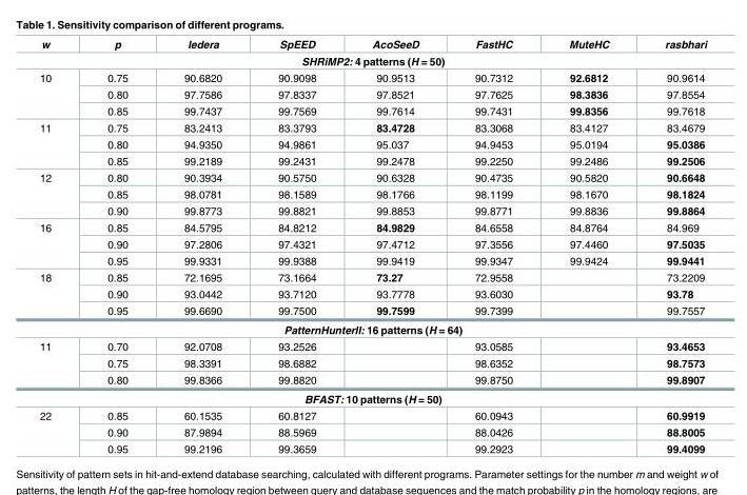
<table><thead><tr><td>w</td><td>p</td><td>Iedera</td><td>SpEED</td><td>AcoSeeD</td><td>FastHC</td><td>MuteHC</td><td>rasbhari</td></tr></thead><tbody><tr><td colspan="8">SHRiMP2: 4 patterns (H = 50)</td></tr><tr><td rowspan="3">10</td><td>0.75</td><td>90.6820</td><td>90.9098</td><td>90.9513</td><td>90.7312</td><td>92.6812</td><td>90.9614</td></tr><tr><td>0.80</td><td>97.7586</td><td>97.8337</td><td>97.8521</td><td>97.7625</td><td>98.3836</td><td>97.8554</td></tr><tr><td>0.85</td><td>99.7437</td><td>99.7569</td><td>99.7614</td><td>99.7431</td><td>99.8356</td><td>99.7618</td></tr><tr><td rowspan="3">11</td><td>0.75</td><td>83.2413</td><td>83.3793</td><td>83.4728</td><td>83.3068</td><td>83.4127</td><td>83.4679</td></tr><tr><td>0.80</td><td>94.9350</td><td>94.9861</td><td>95.037</td><td>94.9453</td><td>95.0194</td><td>95.0386</td></tr><tr><td>0.85</td><td>99.2189</td><td>99.2431</td><td>99.2478</td><td>99.2250</td><td>99.2486</td><td>99.2506</td></tr><tr><td rowspan="3">12</td><td>0.80</td><td>90.3934</td><td>90.5750</td><td>90.6328</td><td>90.4735</td><td>90.5820</td><td>90.6648</td></tr><tr><td>0.85</td><td>98.0781</td><td>98.1589</td><td>98.1766</td><td>98.1199</td><td>98.1670</td><td>98.1824</td></tr><tr><td>0.90</td><td>99.8773</td><td>99.8821</td><td>99.8853</td><td>99.8771</td><td>99.8836</td><td>99.8864</td></tr><tr><td rowspan="3">16</td><td>0.85</td><td>84.5795</td><td>84.8212</td><td>84.9829</td><td>84.6558</td><td>84.8764</td><td>84.969</td></tr><tr><td>0.90</td><td>97.2806</td><td>97.4321</td><td>97.4712</td><td>97.3556</td><td>97.4460</td><td>97.5035</td></tr><tr><td>0.95</td><td>99.9331</td><td>99.9388</td><td>99.9419</td><td>99.9347</td><td>99.9424</td><td>99.9441</td></tr><tr><td rowspan="3">18</td><td>0.85</td><td>72.1695</td><td>73.1664</td><td>73.27</td><td>72.9558</td><td></td><td>73.2209</td></tr><tr><td>0.90</td><td>93.0442</td><td>93.7120</td><td>93.7778</td><td>93.6030</td><td></td><td>93.78</td></tr><tr><td>0.95</td><td>99.6690</td><td>99.7500</td><td>99.7599</td><td>99.7399</td><td></td><td>99.7557</td></tr><tr><td colspan="8">PatternHunterII: 16 patterns (H = 64)</td></tr><tr><td rowspan="3">11</td><td>0.70</td><td>92.0708</td><td>93.2526</td><td></td><td>93.0585</td><td></td><td>93.4653</td></tr><tr><td>0.75</td><td>98.3391</td><td>98.6882</td><td></td><td>98.6352</td><td></td><td>98.7573</td></tr><tr><td>0.80</td><td>99.8366</td><td>99.8820</td><td></td><td>99.8750</td><td></td><td>99.8907</td></tr><tr><td colspan="8">BFAST: 10 patterns (H = 50)</td></tr><tr><td rowspan="3">22</td><td>0.85</td><td>60.1535</td><td>60.8127</td><td></td><td>60.0943</td><td></td><td>60.9919</td></tr><tr><td>0.90</td><td>87.9894</td><td>88.5969</td><td></td><td>88.0426</td><td></td><td>88.8005</td></tr><tr><td>0.95</td><td>99.2196</td><td>99.3659</td><td></td><td>99.2923</td><td></td><td>99.4099</td></tr></tbody></table>